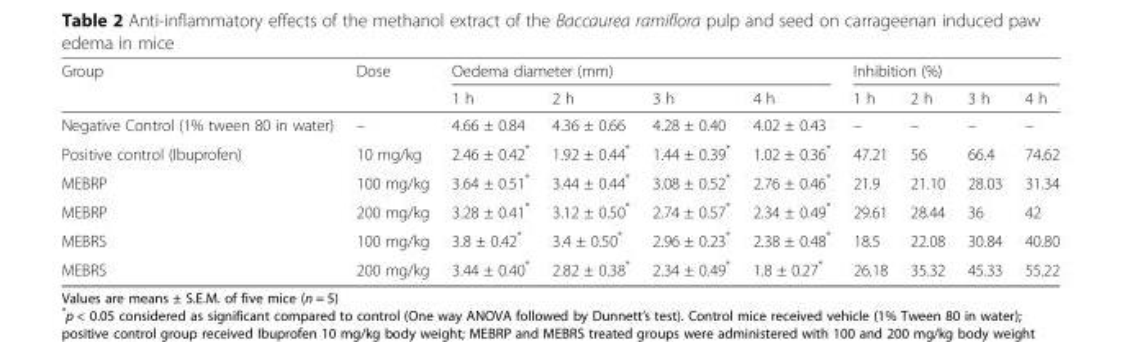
<table><thead><tr><td rowspan="2">Group</td><td rowspan="2">Dose</td><td colspan="4">Oedema diameter (mm)</td><td colspan="4">Inhibition (%)</td></tr><tr><td>1 h</td><td>2 h</td><td>3 h</td><td>4 h</td><td>1 h</td><td>2 h</td><td>3 h</td><td>4 h</td></tr></thead><tbody><tr><td>Negative Control (1% tween 80 in water)</td><td>–</td><td>4.66 ± 0.84</td><td>4.36 ± 0.66</td><td>4.28 ± 0.40</td><td>4.02 ± 0.43</td><td>–</td><td>–</td><td>–</td><td>–</td></tr><tr><td>Positive control (Ibuprofen)</td><td>10 mg/kg</td><td>2.46 ± 0.42*</td><td>1.92 ± 0.44*</td><td>1.44 ± 0.39*</td><td>1.02 ± 0.36*</td><td>47.21</td><td>56</td><td>66.4</td><td>74.62</td></tr><tr><td>MEBRP</td><td>100 mg/kg</td><td>3.64 ± 0.51*</td><td>3.44 ± 0.44*</td><td>3.08 ± 0.52*</td><td>2.76 ± 0.46*</td><td>21.9</td><td>21.10</td><td>28.03</td><td>31.34</td></tr><tr><td>MEBRP</td><td>200 mg/kg</td><td>3.28 ± 0.41*</td><td>3.12 ± 0.50*</td><td>2.74 ± 0.57*</td><td>2.34 ± 0.49*</td><td>29.61</td><td>28.44</td><td>36</td><td>42</td></tr><tr><td>MEBRS</td><td>100 mg/kg</td><td>3.8 ± 0.42*</td><td>3.4 ± 0.50*</td><td>2.96 ± 0.23*</td><td>2.38 ± 0.48*</td><td>18.5</td><td>22.08</td><td>30.84</td><td>40.80</td></tr><tr><td>MEBRS</td><td>200 mg/kg</td><td>3.44 ± 0.40*</td><td>2.82 ± 0.38*</td><td>2.34 ± 0.49*</td><td>1.8 ± 0.27*</td><td>26.18</td><td>35.32</td><td>45.33</td><td>55.22</td></tr></tbody></table>